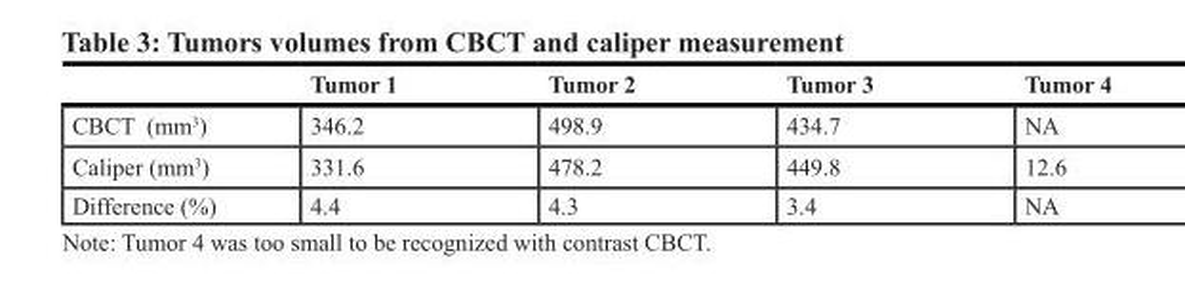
<table><thead><tr><td></td><td>Tumor 1</td><td>Tumor 2</td><td>Tumor 3</td><td>Tumor 4</td></tr></thead><tbody><tr><td>CBCT (mm<sup>3</sup>)</td><td>346.2</td><td>498.9</td><td>434.7</td><td>NA</td></tr><tr><td>Caliper (mm<sup>3</sup>)</td><td>331.6</td><td>478.2</td><td>449.8</td><td>12.6</td></tr><tr><td>Difference (%)</td><td>4.4</td><td>4.3</td><td>3.4</td><td>NA</td></tr></tbody></table>